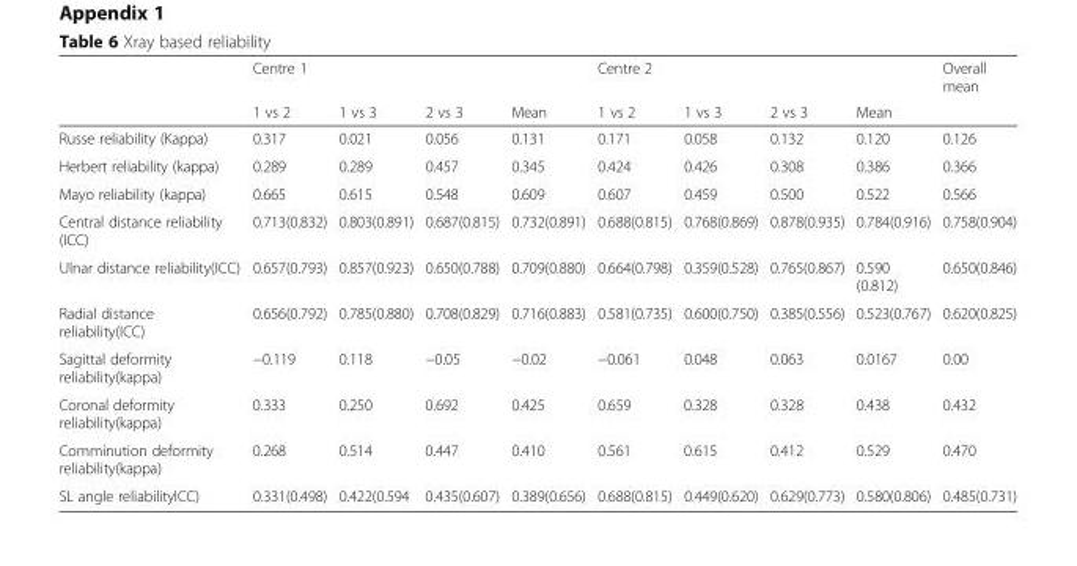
<table><thead><tr><td rowspan="2"></td><td rowspan="2">Centre 1 1 vs 2</td><td rowspan="2">1 vs 3</td><td rowspan="2">2 vs 3</td><td rowspan="2">Mean</td><td rowspan="2">Centre 2 1 vs 2</td><td rowspan="2">1 vs 3</td><td rowspan="2">2 vs 3</td><td rowspan="2">Mean</td><td rowspan="2">Overall mean</td></tr><tr></tr></thead><tbody><tr><td>Russe reliability (Kappa)</td><td>0.317</td><td>0.021</td><td>0.056</td><td>0.131</td><td>0.171</td><td>0.058</td><td>0.132</td><td>0.120</td><td>0.126</td></tr><tr><td>Herbert reliability (kappa)</td><td>0.289</td><td>0.289</td><td>0.457</td><td>0.345</td><td>0.424</td><td>0.426</td><td>0.308</td><td>0.386</td><td>0.366</td></tr><tr><td>Mayo reliability (kappa)</td><td>0.665</td><td>0.615</td><td>0.548</td><td>0.609</td><td>0.607</td><td>0.459</td><td>0.500</td><td>0.522</td><td>0.566</td></tr><tr><td>Central distance reliability (ICC)</td><td>0.713(0.832)</td><td>0.803(0.891)</td><td>0.687(0.815)</td><td>0.732(0.891)</td><td>0.688(0.815)</td><td>0.768(0.869)</td><td>0.878(0.935)</td><td>0.784(0.916)</td><td>0.758(0.904)</td></tr><tr><td>Ulnar distance reliability(ICC)</td><td>0.657(0.793)</td><td>0.857(0.923)</td><td>0.650(0.788)</td><td>0.709(0.880)</td><td>0.664(0.798)</td><td>0.359(0.528)</td><td>0.765(0.867)</td><td>0.590 (0.812)</td><td>0.650(0.846)</td></tr><tr><td>Radial distance reliability(ICC)</td><td>0.656(0.792)</td><td>0.785(0.880)</td><td>0.708(0.829)</td><td>0.716(0.883)</td><td>0.581(0.735)</td><td>0.600(0.750)</td><td>0.385(0.556)</td><td>0.523(0.767)</td><td>0.620(0.825)</td></tr><tr><td>Sagittal deformity reliability(kappa)</td><td>−0.119</td><td>0.118</td><td>−0.05</td><td>−0.02</td><td>−0.061</td><td>0.048</td><td>0.063</td><td>0.0167</td><td>0.00</td></tr><tr><td>Coronal deformity reliability(kappa)</td><td>0.333</td><td>0.250</td><td>0.692</td><td>0.425</td><td>0.659</td><td>0.328</td><td>0.328</td><td>0.438</td><td>0.432</td></tr><tr><td>Comminution deformity reliability(kappa)</td><td>0.268</td><td>0.514</td><td>0.447</td><td>0.410</td><td>0.561</td><td>0.615</td><td>0.412</td><td>0.529</td><td>0.470</td></tr><tr><td>SL angle reliabilityICC)</td><td>0.331(0.498)</td><td>0.422(0.594</td><td>0.435(0.607)</td><td>0.389(0.656)</td><td>0.688(0.815)</td><td>0.449(0.620)</td><td>0.629(0.773)</td><td>0.580(0.806)</td><td>0.485(0.731)</td></tr></tbody></table>